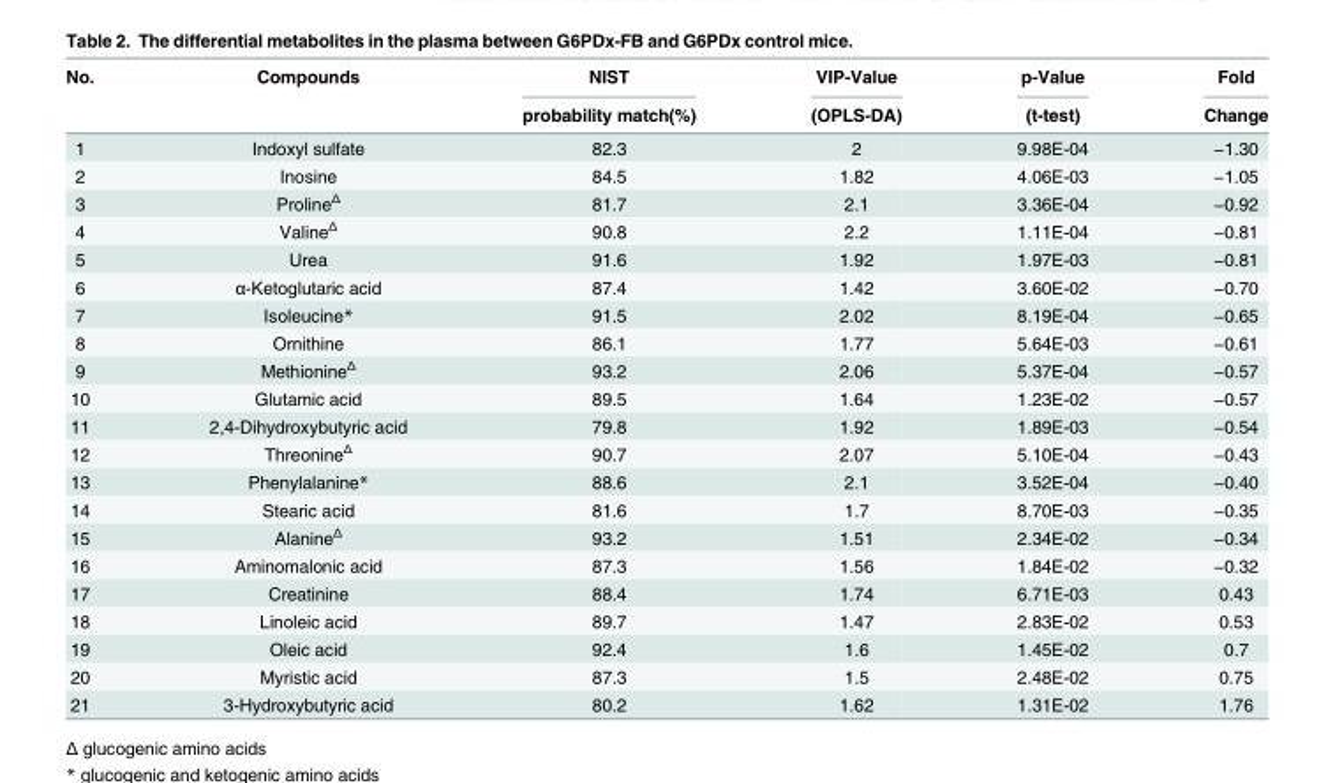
<table><thead><tr><td rowspan="2">No.</td><td rowspan="2">Compounds</td><td rowspan="2">NIST probability match(%)</td><td rowspan="2">VIP-Value (OPLS-DA)</td><td rowspan="2">p-Value (t-test)</td><td rowspan="2">Fold Change</td></tr><tr></tr></thead><tbody><tr><td>1</td><td>Indoxyl sulfate</td><td>82.3</td><td>2</td><td>9.98E-04</td><td>−1.30</td></tr><tr><td>2</td><td>Inosine</td><td>84.5</td><td>1.82</td><td>4.06E-03</td><td>−1.05</td></tr><tr><td>3</td><td>Proline<sup>Δ</sup></td><td>81.7</td><td>2.1</td><td>3.36E-04</td><td>−0.92</td></tr><tr><td>4</td><td>Valine<sup>Δ</sup></td><td>90.8</td><td>2.2</td><td>1.11E-04</td><td>−0.81</td></tr><tr><td>5</td><td>Urea</td><td>91.6</td><td>1.92</td><td>1.97E-03</td><td>−0.81</td></tr><tr><td>6</td><td>α-Ketoglutaric acid</td><td>87.4</td><td>1.42</td><td>3.60E-02</td><td>−0.70</td></tr><tr><td>7</td><td>Isoleucine*</td><td>91.5</td><td>2.02</td><td>8.19E-04</td><td>−0.65</td></tr><tr><td>8</td><td>Ornithine</td><td>86.1</td><td>1.77</td><td>5.64E-03</td><td>−0.61</td></tr><tr><td>9</td><td>Methionine<sup>Δ</sup></td><td>93.2</td><td>2.06</td><td>5.37E-04</td><td>−0.57</td></tr><tr><td>10</td><td>Glutamic acid</td><td>89.5</td><td>1.64</td><td>1.23E-02</td><td>−0.57</td></tr><tr><td>11</td><td>2,4-Dihydroxybutyric acid</td><td>79.8</td><td>1.92</td><td>1.89E-03</td><td>−0.54</td></tr><tr><td>12</td><td>Threonine<sup>Δ</sup></td><td>90.7</td><td>2.07</td><td>5.10E-04</td><td>−0.43</td></tr><tr><td>13</td><td>Phenylalanine*</td><td>88.6</td><td>2.1</td><td>3.52E-04</td><td>−0.40</td></tr><tr><td>14</td><td>Stearic acid</td><td>81.6</td><td>1.7</td><td>8.70E-03</td><td>−0.35</td></tr><tr><td>15</td><td>Alanine<sup>Δ</sup></td><td>93.2</td><td>1.51</td><td>2.34E-02</td><td>−0.34</td></tr><tr><td>16</td><td>Aminomalonic acid</td><td>87.3</td><td>1.56</td><td>1.84E-02</td><td>−0.32</td></tr><tr><td>17</td><td>Creatinine</td><td>88.4</td><td>1.74</td><td>6.71E-03</td><td>0.43</td></tr><tr><td>18</td><td>Linoleic acid</td><td>89.7</td><td>1.47</td><td>2.83E-02</td><td>0.53</td></tr><tr><td>19</td><td>Oleic acid</td><td>92.4</td><td>1.6</td><td>1.45E-02</td><td>0.7</td></tr><tr><td>20</td><td>Myristic acid</td><td>87.3</td><td>1.5</td><td>2.48E-02</td><td>0.75</td></tr><tr><td>21</td><td>3-Hydroxybutyric acid</td><td>80.2</td><td>1.62</td><td>1.31E-02</td><td>1.76</td></tr></tbody></table>